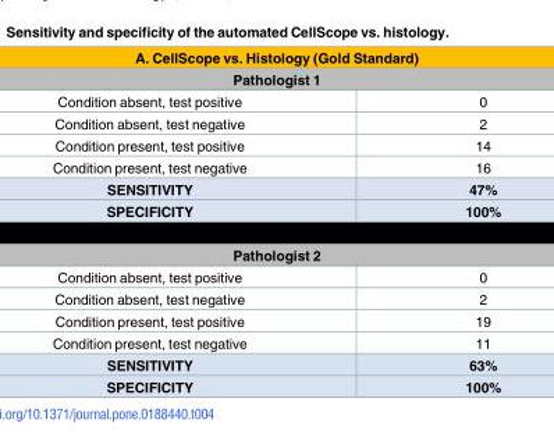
<table><thead><tr><td rowspan="2" colspan="2">A. CellScope vs. Histology (Gold Standard) Pathologist 1</td></tr><tr></tr><tr><td>Condition absent, test positive</td><td>0</td></tr></thead><tbody><tr><td>Condition absent, test negative</td><td>2</td></tr><tr><td>Condition present, test positive</td><td>14</td></tr><tr><td>Condition present, test negative</td><td>16</td></tr><tr><td>SENSITIVITY</td><td>47%</td></tr><tr><td>SPECIFICITY</td><td>100%</td></tr><tr><td colspan="2">Pathologist 2</td></tr><tr><td>Condition absent, test positive</td><td>0</td></tr><tr><td>Condition absent, test negative</td><td>2</td></tr><tr><td>Condition present, test positive</td><td>19</td></tr><tr><td>Condition present, test negative</td><td>11</td></tr><tr><td>SENSITIVITY</td><td>63%</td></tr><tr><td>SPECIFICITY</td><td>100%</td></tr></tbody></table>